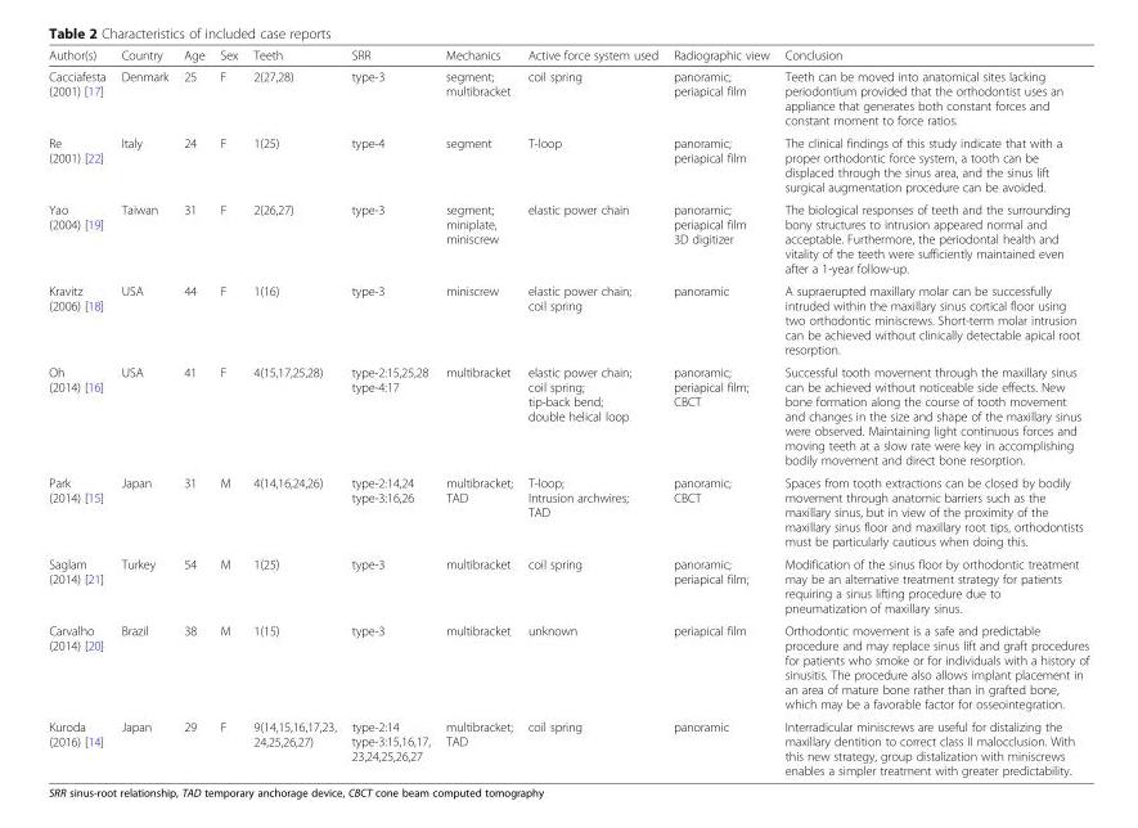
<table><thead><tr><td>Author(s)</td><td>Country</td><td>Age</td><td>Sex</td><td>Teeth</td><td>SRR</td><td>Mechanics</td><td>Active force system used</td><td>Radiographic view</td><td>Conclusion</td></tr></thead><tbody><tr><td>Cacciafesta (2001) [17]</td><td>Denmark</td><td>25</td><td>F</td><td>2(27,28)</td><td>type-3</td><td>segment; multibracket</td><td>coil spring</td><td>panoramic; periapical film</td><td>Teeth can be moved into anatomical sites lacking periodontium provided that the orthodontist uses an appliance that generates both constant forces and constant moment to force ratios.</td></tr><tr><td>Re (2001) [22]</td><td>Italy</td><td>24</td><td>F</td><td>1(25)</td><td>type-4</td><td>segment</td><td>T-loop</td><td>panoramic; periapical film</td><td>The clinical findings of this study indicate that with a proper orthodontic force system, a tooth can be displaced through the sinus area, and the sinus lift surgical augmentation procedure can be avoided.</td></tr><tr><td>Yao (2004) [19]</td><td>Taiwan</td><td>31</td><td>F</td><td>2(26,27)</td><td>type-3</td><td>segment; miniplate, miniscrew</td><td>elastic power chain</td><td>panoramic; periapical film 3D digitizer</td><td>The biological responses of teeth and the surrounding bony structures to intrusion appeared normal and acceptable. Furthermore, the periodontal health and vitality of the teeth were sufficiently maintained even after a 1-year follow-up.</td></tr><tr><td>Kravitz (2006) [18]</td><td>USA</td><td>44</td><td>F</td><td>1(16)</td><td>type-3</td><td>miniscrew</td><td>elastic power chain; coil spring</td><td>panoramic</td><td>A supraerupted maxillary molar can be successfully intruded within the maxillary sinus cortical floor using two orthodontic miniscrews. Short-term molar intrusion can be achieved without clinically detectable apical root resorption.</td></tr><tr><td>Oh (2014) [16]</td><td>USA</td><td>41</td><td>F</td><td>4(15,17,25,28)</td><td>type-2:15,25,28 type-4:17</td><td>multibracket</td><td>elastic power chain; coil spring; tip-back bend; double helical loop</td><td>panoramic; periapical film; CBCT</td><td>Successful tooth movement through the maxillary sinus can be achieved without noticeable side effects. New bone formation along the course of tooth movement and changes in the size and shape of the maxillary sinus were observed. Maintaining light continuous forces and moving teeth at a slow rate were key in accomplishing bodily movement and direct bone resorption.</td></tr><tr><td>Park (2014) [15]</td><td>Japan</td><td>31</td><td>M</td><td>4(14,16,24,26)</td><td>type-2:14,24 type-3:16,26</td><td>multibracket; TAD</td><td>T-loop; Intrusion archwires; TAD</td><td>panoramic; CBCT</td><td>Spaces from tooth extractions can be closed by bodily movement through anatomic barriers such as the maxillary sinus, but in view of the proximity of the maxillary sinus floor and maxillary root tips, orthodontists must be particularly cautious when doing this.</td></tr><tr><td>Saglam (2014) [21]</td><td>Turkey</td><td>54</td><td>M</td><td>1(25)</td><td>type-3</td><td>multibracket</td><td>coil spring</td><td>panoramic; periapical film;</td><td>Modification of the sinus floor by orthodontic treatment may be an alternative treatment strategy for patients requiring a sinus lifting procedure due to pneumatization of maxillary sinus.</td></tr><tr><td>Carvalho (2014) [20]</td><td>Brazil</td><td>38</td><td>M</td><td>1(15)</td><td>type-3</td><td>multibracket</td><td>unknown</td><td>periapical film</td><td>Orthodontic movement is a safe and predictable procedure and may replace sinus lift and graft procedures for patients who smoke or for individuals with a history of sinusitis. The procedure also allows implant placement in an area of mature bone rather than in grafted bone, which may be a favorable factor for osseointegration.</td></tr><tr><td>Kuroda (2016) [14]</td><td>Japan</td><td>29</td><td>F</td><td>9(14,15,16,17,23, 24,25,26,27)</td><td>type-2:14 type-3:15,16,17, 23,24,25,26,27</td><td>multibracket; TAD</td><td>coil spring</td><td>panoramic</td><td>Interradicular miniscrews are useful for distalizing the maxillary dentition to correct class II malocclusion. With this new strategy, group distalization with miniscrews enables a simpler treatment with greater predictability.</td></tr></tbody></table>